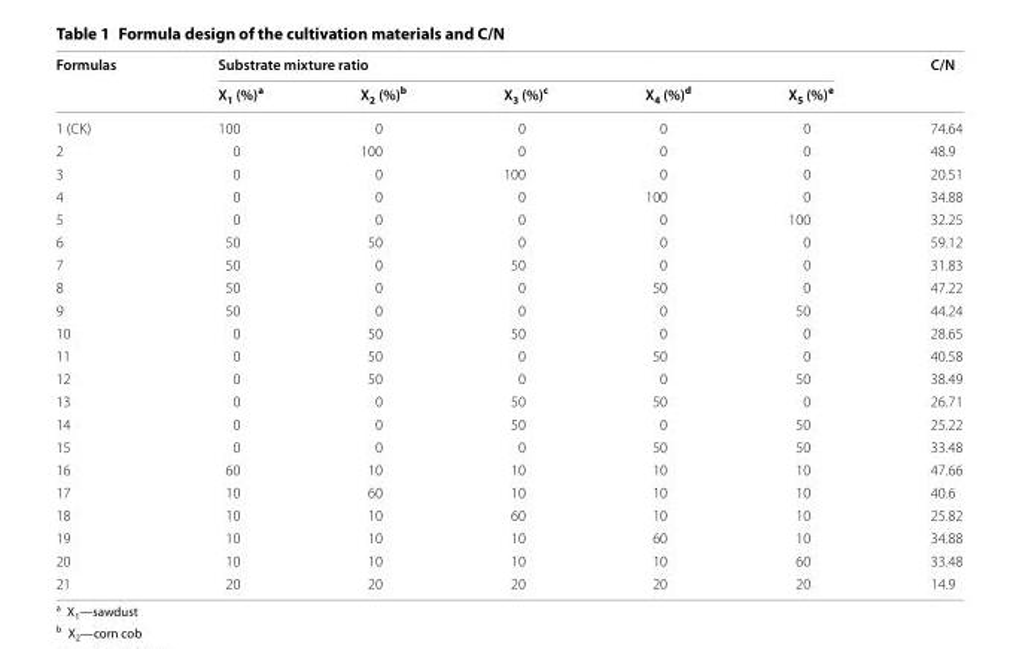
<table><thead><tr><td rowspan="2">Formulas</td><td colspan="5">Substrate mixture ratio</td><td rowspan="2">C/N</td></tr><tr><td>X<sub>1</sub> (%)<sup>a</sup></td><td>X<sub>2</sub> (%)<sup>b</sup></td><td>X<sub>3</sub> (%)<sup>c</sup></td><td>X<sub>4</sub> (%)<sup>d</sup></td><td>X<sub>5</sub> (%)<sup>e</sup></td></tr></thead><tbody><tr><td>1 (CK)</td><td>100</td><td>0</td><td>0</td><td>0</td><td>0</td><td>74.64</td></tr><tr><td>2</td><td>0</td><td>100</td><td>0</td><td>0</td><td>0</td><td>48.9</td></tr><tr><td>3</td><td>0</td><td>0</td><td>100</td><td>0</td><td>0</td><td>20.51</td></tr><tr><td>4</td><td>0</td><td>0</td><td>0</td><td>100</td><td>0</td><td>34.88</td></tr><tr><td>5</td><td>0</td><td>0</td><td>0</td><td>0</td><td>100</td><td>32.25</td></tr><tr><td>6</td><td>50</td><td>50</td><td>0</td><td>0</td><td>0</td><td>59.12</td></tr><tr><td>7</td><td>50</td><td>0</td><td>50</td><td>0</td><td>0</td><td>31.83</td></tr><tr><td>8</td><td>50</td><td>0</td><td>0</td><td>50</td><td>0</td><td>47.22</td></tr><tr><td>9</td><td>50</td><td>0</td><td>0</td><td>0</td><td>50</td><td>44.24</td></tr><tr><td>10</td><td>0</td><td>50</td><td>50</td><td>0</td><td>0</td><td>28.65</td></tr><tr><td>11</td><td>0</td><td>50</td><td>0</td><td>50</td><td>0</td><td>40.58</td></tr><tr><td>12</td><td>0</td><td>50</td><td>0</td><td>0</td><td>50</td><td>38.49</td></tr><tr><td>13</td><td>0</td><td>0</td><td>50</td><td>50</td><td>0</td><td>26.71</td></tr><tr><td>14</td><td>0</td><td>0</td><td>50</td><td>0</td><td>50</td><td>25.22</td></tr><tr><td>15</td><td>0</td><td>0</td><td>0</td><td>50</td><td>50</td><td>33.48</td></tr><tr><td>16</td><td>60</td><td>10</td><td>10</td><td>10</td><td>10</td><td>47.66</td></tr><tr><td>17</td><td>10</td><td>60</td><td>10</td><td>10</td><td>10</td><td>40.6</td></tr><tr><td>18</td><td>10</td><td>10</td><td>60</td><td>10</td><td>10</td><td>25.82</td></tr><tr><td>19</td><td>10</td><td>10</td><td>10</td><td>60</td><td>10</td><td>34.88</td></tr><tr><td>20</td><td>10</td><td>10</td><td>10</td><td>10</td><td>60</td><td>33.48</td></tr><tr><td>21</td><td>20</td><td>20</td><td>20</td><td>20</td><td>20</td><td>14.9</td></tr></tbody></table>